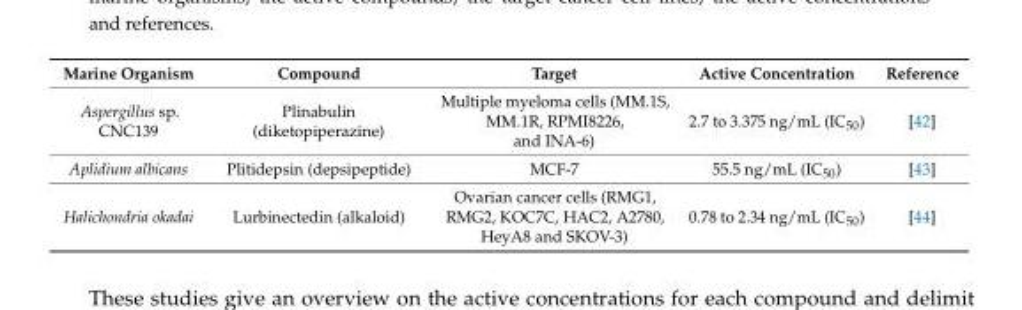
<table><thead><tr><td>Marine Organism</td><td>Compound</td><td>Target</td><td>Active Concentration</td><td>Reference</td></tr></thead><tbody><tr><td>Aspergillus sp. CNC139</td><td>Plinabulin (diketopiperazine)</td><td>Multiple myeloma cells (MM.1S, MM.1R, RPMI8226, and INA-6)</td><td>2.7 to 3.375 ng/mL (IC<sub>50</sub>)</td><td>[42]</td></tr><tr><td>Aplidium albicans</td><td>Plitidepsin (depsipeptide)</td><td>MCF-7</td><td>55.5 ng/mL (IC<sub>50</sub>)</td><td>[43]</td></tr><tr><td>Halichondria okadai</td><td>Lurbinectedin (alkaloid)</td><td>Ovarian cancer cells (RMG1, RMG2, KOC7C, HAC2, A2780, HeyA8 and SKOV-3)</td><td>0.78 to 2.34 ng/mL (IC<sub>50</sub>)</td><td>[44]</td></tr></tbody></table>